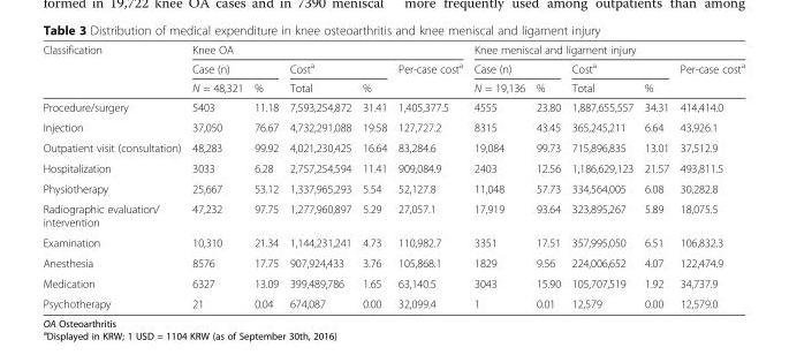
<table><thead><tr><td rowspan="3">Classification</td><td colspan="5">Knee OA</td><td colspan="5">Knee meniscal and ligament injury</td></tr><tr><td colspan="2">Case (n)</td><td colspan="2">Cost<sup>a</sup></td><td rowspan="2">Per-case cost<sup>a</sup></td><td colspan="2">Case (n)</td><td colspan="2">Cost<sup>a</sup></td><td rowspan="2">Per-case cost<sup>a</sup></td></tr><tr><td>N = 48,321</td><td>%</td><td>Total</td><td>%</td><td>N = 19,136</td><td>%</td><td>Total</td><td>%</td></tr></thead><tbody><tr><td>Procedure/surgery</td><td>5403</td><td>11.18</td><td>7,593,254,872</td><td>31.41</td><td>1,405,377.5</td><td>4555</td><td>23.80</td><td>1,887,655,557</td><td>34.31</td><td>414,414.0</td></tr><tr><td>Injection</td><td>37,050</td><td>76.67</td><td>4,732,291,088</td><td>19.58</td><td>127,727.2</td><td>8315</td><td>43.45</td><td>365,245,211</td><td>6.64</td><td>43,926.1</td></tr><tr><td>Outpatient visit (consultation)</td><td>48,283</td><td>99.92</td><td>4,021,230,425</td><td>16.64</td><td>83,284.6</td><td>19,084</td><td>99.73</td><td>715,896,835</td><td>13.01</td><td>37,512.9</td></tr><tr><td>Hospitalization</td><td>3033</td><td>6.28</td><td>2,757,254,594</td><td>11.41</td><td>909,084.9</td><td>2403</td><td>12.56</td><td>1,186,629,123</td><td>21.57</td><td>493,811.5</td></tr><tr><td>Physiotherapy</td><td>25,667</td><td>53.12</td><td>1,337,965,293</td><td>5.54</td><td>52,127.8</td><td>11,048</td><td>57.73</td><td>334,564,005</td><td>6.08</td><td>30,282.8</td></tr><tr><td>Radiographic evaluation/ intervention</td><td>47,232</td><td>97.75</td><td>1,277,960,897</td><td>5.29</td><td>27,057.1</td><td>17,919</td><td>93.64</td><td>323,895,267</td><td>5.89</td><td>18,075.5</td></tr><tr><td>Examination</td><td>10,310</td><td>21.34</td><td>1,144,231,241</td><td>4.73</td><td>110,982.7</td><td>3351</td><td>17.51</td><td>357,995,050</td><td>6.51</td><td>106,832.3</td></tr><tr><td>Anesthesia</td><td>8576</td><td>17.75</td><td>907,924,433</td><td>3.76</td><td>105,868.1</td><td>1829</td><td>9.56</td><td>224,006,652</td><td>4.07</td><td>122,474.9</td></tr><tr><td>Medication</td><td>6327</td><td>13.09</td><td>399,489,786</td><td>1.65</td><td>63,140.5</td><td>3043</td><td>15.90</td><td>105,707,519</td><td>1.92</td><td>34,737.9</td></tr><tr><td>Psychotherapy</td><td>21</td><td>0.04</td><td>674,087</td><td>0.00</td><td>32,099.4</td><td>1</td><td>0.01</td><td>12,579</td><td>0.00</td><td>12,579.0</td></tr></tbody></table>